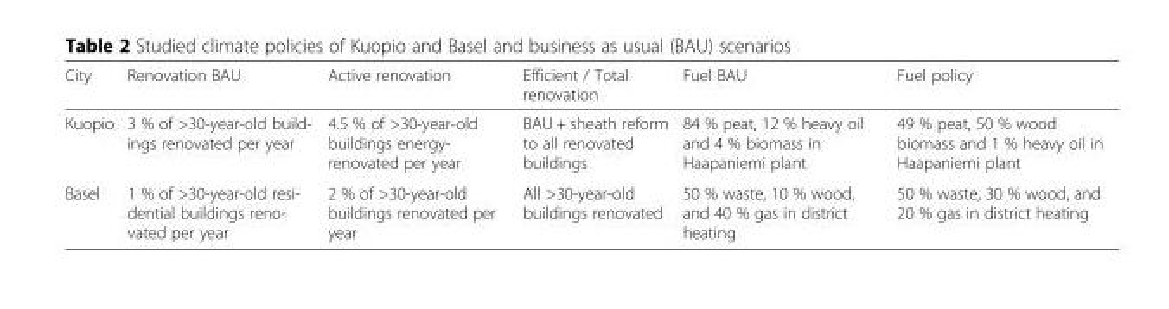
<table><thead><tr><td>City</td><td>Renovation BAU</td><td>Active renovation</td><td>Efficient / Total renovation</td><td>Fuel BAU</td><td>Fuel policy</td></tr></thead><tbody><tr><td>Kuopio</td><td>3 % of &gt;30-year-old build- ings renovated per year</td><td>4.5 % of &gt;30-year-old buildings energy- renovated per year</td><td>BAU + sheath reform to all renovated buildings</td><td>84 % peat, 12 % heavy oil and 4 % biomass in Haapaniemi plant</td><td>49 % peat, 50 % wood biomass and 1 % heavy oil in Haapaniemi plant</td></tr><tr><td>Basel</td><td>1 % of &gt;30-year-old resi- dential buildings reno- vated per year</td><td>2 % of &gt;30-year-old buildings renovated per year</td><td>All &gt;30-year-old buildings renovated</td><td>50 % waste, 10 % wood, and 40 % gas in district heating</td><td>50 % waste, 30 % wood, and 20 % gas in district heating</td></tr></tbody></table>